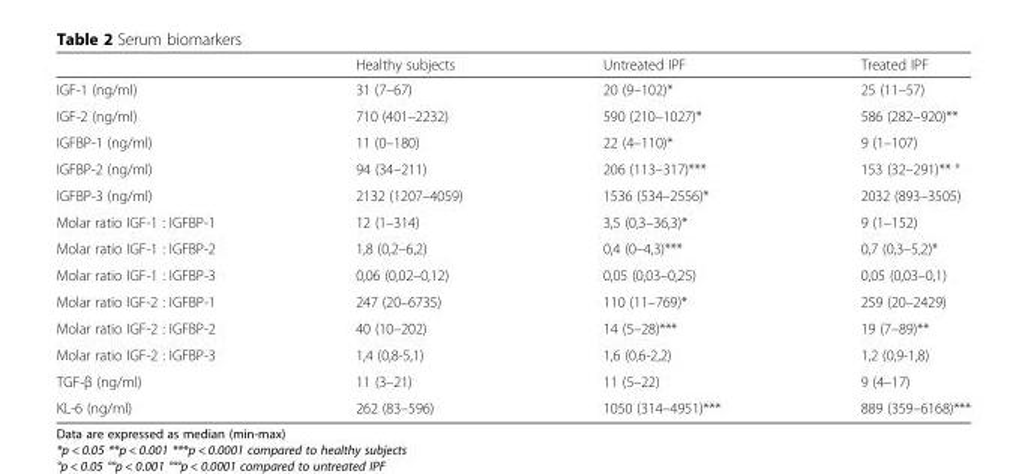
<table><thead><tr><td></td><td>Healthy subjects</td><td>Untreated IPF</td><td>Treated IPF</td></tr></thead><tbody><tr><td>IGF-1 (ng/ml)</td><td>31 (7–67)</td><td>20 (9–102)*</td><td>25 (11–57)</td></tr><tr><td>IGF-2 (ng/ml)</td><td>710 (401–2232)</td><td>590 (210–1027)*</td><td>586 (282–920)**</td></tr><tr><td>IGFBP-1 (ng/ml)</td><td>11 (0–180)</td><td>22 (4–110)*</td><td>9 (1–107)</td></tr><tr><td>IGFBP-2 (ng/ml)</td><td>94 (34–211)</td><td>206 (113–317)***</td><td>153 (32–291)** °</td></tr><tr><td>IGFBP-3 (ng/ml)</td><td>2132 (1207–4059)</td><td>1536 (534–2556)*</td><td>2032 (893–3505)</td></tr><tr><td>Molar ratio IGF-1 : IGFBP-1</td><td>12 (1–314)</td><td>3,5 (0,3–36,3)*</td><td>9 (1–152)</td></tr><tr><td>Molar ratio IGF-1 : IGFBP-2</td><td>1,8 (0,2–6,2)</td><td>0,4 (0–4,3)***</td><td>0,7 (0,3–5,2)*</td></tr><tr><td>Molar ratio IGF-1 : IGFBP-3</td><td>0,06 (0,02–0,12)</td><td>0,05 (0,03–0,25)</td><td>0,05 (0,03–0,1)</td></tr><tr><td>Molar ratio IGF-2 : IGFBP-1</td><td>247 (20–6735)</td><td>110 (11–769)*</td><td>259 (20–2429)</td></tr><tr><td>Molar ratio IGF-2 : IGFBP-2</td><td>40 (10–202)</td><td>14 (5–28)***</td><td>19 (7–89)**</td></tr><tr><td>Molar ratio IGF-2 : IGFBP-3</td><td>1,4 (0,8-5,1)</td><td>1,6 (0,6-2,2)</td><td>1,2 (0,9-1,8)</td></tr><tr><td>TGF-β (ng/ml)</td><td>11 (3–21)</td><td>11 (5–22)</td><td>9 (4–17)</td></tr><tr><td>KL-6 (ng/ml)</td><td>262 (83–596)</td><td>1050 (314–4951)***</td><td>889 (359–6168)***</td></tr></tbody></table>